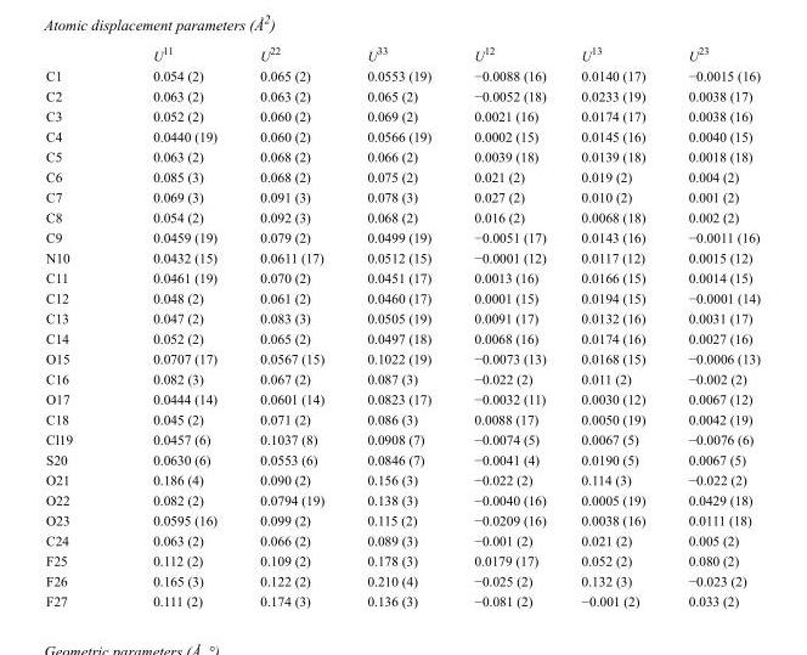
<table><thead><tr><td></td><td>U<sup>11</sup></td><td>U<sup>22</sup></td><td>U<sup>33</sup></td><td>U<sup>12</sup></td><td>U<sup>13</sup></td><td>U<sup>23</sup></td></tr></thead><tbody><tr><td>C1</td><td>0.054 (2)</td><td>0.065 (2)</td><td>0.0553 (19)</td><td>−0.0088 (16)</td><td>0.0140 (17)</td><td>−0.0015 (16)</td></tr><tr><td>C2</td><td>0.063 (2)</td><td>0.063 (2)</td><td>0.065 (2)</td><td>−0.0052 (18)</td><td>0.0233 (19)</td><td>0.0038 (17)</td></tr><tr><td>C3</td><td>0.052 (2)</td><td>0.060 (2)</td><td>0.069 (2)</td><td>0.0021 (16)</td><td>0.0174 (17)</td><td>0.0038 (16)</td></tr><tr><td>C4</td><td>0.0440 (19)</td><td>0.060 (2)</td><td>0.0566 (19)</td><td>0.0002 (15)</td><td>0.0145 (16)</td><td>0.0040 (15)</td></tr><tr><td>C5</td><td>0.063 (2)</td><td>0.068 (2)</td><td>0.066 (2)</td><td>0.0039 (18)</td><td>0.0139 (18)</td><td>0.0018 (18)</td></tr><tr><td>C6</td><td>0.085 (3)</td><td>0.068 (2)</td><td>0.075 (2)</td><td>0.021 (2)</td><td>0.019 (2)</td><td>0.004 (2)</td></tr><tr><td>C7</td><td>0.069 (3)</td><td>0.091 (3)</td><td>0.078 (3)</td><td>0.027 (2)</td><td>0.010 (2)</td><td>0.001 (2)</td></tr><tr><td>C8</td><td>0.054 (2)</td><td>0.092 (3)</td><td>0.068 (2)</td><td>0.016 (2)</td><td>0.0068 (18)</td><td>0.002 (2)</td></tr><tr><td>C9</td><td>0.0459 (19)</td><td>0.079 (2)</td><td>0.0499 (19)</td><td>−0.0051 (17)</td><td>0.0143 (16)</td><td>−0.0011 (16)</td></tr><tr><td>N10</td><td>0.0432 (15)</td><td>0.0611 (17)</td><td>0.0512 (15)</td><td>−0.0001 (12)</td><td>0.0117 (12)</td><td>0.0015 (12)</td></tr><tr><td>C11</td><td>0.0461 (19)</td><td>0.070 (2)</td><td>0.0451 (17)</td><td>0.0013 (16)</td><td>0.0166 (15)</td><td>0.0014 (15)</td></tr><tr><td>C12</td><td>0.048 (2)</td><td>0.061 (2)</td><td>0.0460 (17)</td><td>0.0001 (15)</td><td>0.0194 (15)</td><td>−0.0001 (14)</td></tr><tr><td>C13</td><td>0.047 (2)</td><td>0.083 (3)</td><td>0.0505 (19)</td><td>0.0091 (17)</td><td>0.0132 (16)</td><td>0.0031 (17)</td></tr><tr><td>C14</td><td>0.052 (2)</td><td>0.065 (2)</td><td>0.0497 (18)</td><td>0.0068 (16)</td><td>0.0174 (16)</td><td>0.0027 (16)</td></tr><tr><td>O15</td><td>0.0707 (17)</td><td>0.0567 (15)</td><td>0.1022 (19)</td><td>−0.0073 (13)</td><td>0.0168 (15)</td><td>−0.0006 (13)</td></tr><tr><td>C16</td><td>0.082 (3)</td><td>0.067 (2)</td><td>0.087 (3)</td><td>−0.022 (2)</td><td>0.011 (2)</td><td>−0.002 (2)</td></tr><tr><td>O17</td><td>0.0444 (14)</td><td>0.0601 (14)</td><td>0.0823 (17)</td><td>−0.0032 (11)</td><td>0.0030 (12)</td><td>0.0067 (12)</td></tr><tr><td>C18</td><td>0.045 (2)</td><td>0.071 (2)</td><td>0.086 (3)</td><td>0.0088 (17)</td><td>0.0050 (19)</td><td>0.0042 (19)</td></tr><tr><td>Cl19</td><td>0.0457 (6)</td><td>0.1037 (8)</td><td>0.0908 (7)</td><td>−0.0074 (5)</td><td>0.0067 (5)</td><td>−0.0076 (6)</td></tr><tr><td>S20</td><td>0.0630 (6)</td><td>0.0553 (6)</td><td>0.0846 (7)</td><td>−0.0041 (4)</td><td>0.0190 (5)</td><td>0.0067 (5)</td></tr><tr><td>O21</td><td>0.186 (4)</td><td>0.090 (2)</td><td>0.156 (3)</td><td>−0.022 (2)</td><td>0.114 (3)</td><td>−0.022 (2)</td></tr><tr><td>O22</td><td>0.082 (2)</td><td>0.0794 (19)</td><td>0.138 (3)</td><td>−0.0040 (16)</td><td>0.0005 (19)</td><td>0.0429 (18)</td></tr><tr><td>O23</td><td>0.0595 (16)</td><td>0.099 (2)</td><td>0.115 (2)</td><td>−0.0209 (16)</td><td>0.0038 (16)</td><td>0.0111 (18)</td></tr><tr><td>C24</td><td>0.063 (2)</td><td>0.066 (2)</td><td>0.089 (3)</td><td>−0.001 (2)</td><td>0.021 (2)</td><td>0.005 (2)</td></tr><tr><td>F25</td><td>0.112 (2)</td><td>0.109 (2)</td><td>0.178 (3)</td><td>0.0179 (17)</td><td>0.052 (2)</td><td>0.080 (2)</td></tr><tr><td>F26</td><td>0.165 (3)</td><td>0.122 (2)</td><td>0.210 (4)</td><td>−0.025 (2)</td><td>0.132 (3)</td><td>−0.023 (2)</td></tr><tr><td>F27</td><td>0.111 (2)</td><td>0.174 (3)</td><td>0.136 (3)</td><td>−0.081 (2)</td><td>−0.001 (2)</td><td>0.033 (2)</td></tr></tbody></table>